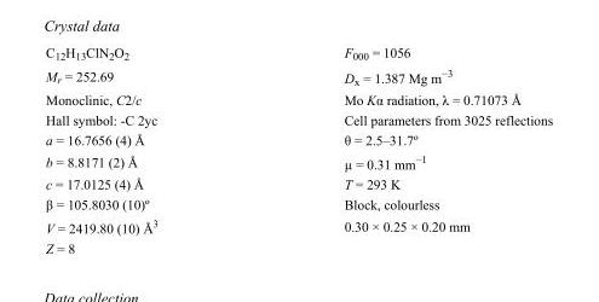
<table><tbody><tr><td>C<sub>12</sub>H<sub>13</sub>ClN<sub>2</sub>O<sub>2</sub></td><td>F000 = 1056</td></tr><tr><td>M<sub>r</sub> = 252.69</td><td>D<sub>x</sub> = 1.387 Mg m<sup>−3</sup></td></tr><tr><td>Monoclinic, C2/c</td><td>Mo Kα radiation, λ = 0.71073 Å</td></tr><tr><td>Hall symbol: -C 2yc</td><td>Cell parameters from 3025 reflections</td></tr><tr><td>a = 16.7656 (4) Å</td><td>θ = 2.5–31.7º</td></tr><tr><td>b = 8.8171 (2) Å</td><td>µ = 0.31 mm<sup>−1</sup></td></tr><tr><td>c = 17.0125 (4) Å</td><td>T = 293 K</td></tr><tr><td>β = 105.8030 (10)º</td><td>Block, colourless</td></tr><tr><td>V = 2419.80 (10) Å<sup>3</sup></td><td>0.30 × 0.25 × 0.20 mm</td></tr><tr><td>Z = 8</td><td></td></tr></tbody></table>